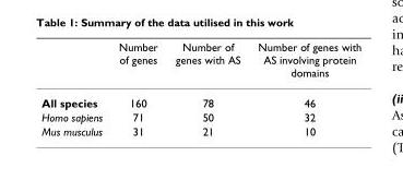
<table><thead><tr><td></td><td>Number of genes</td><td>Number of genes with AS</td><td>Number of genes with AS involving protein domains</td></tr></thead><tbody><tr><td>All species</td><td>160</td><td>78</td><td>46</td></tr><tr><td>Homo sapiens</td><td>71</td><td>50</td><td>32</td></tr><tr><td>Mus musculus</td><td>31</td><td>21</td><td>10</td></tr></tbody></table>